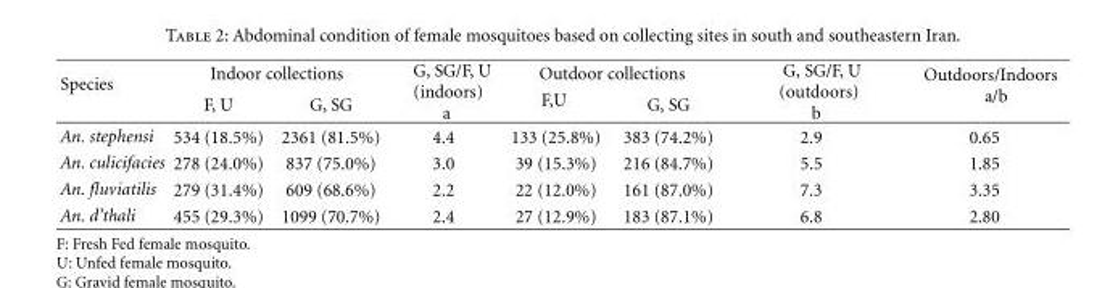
<table><thead><tr><td rowspan="2">Species</td><td colspan="2">Indoor collections</td><td rowspan="2">G, SG/F, U (indoors) a</td><td colspan="2">Outdoor collections</td><td rowspan="2">G, SG/F, U (outdoors) b</td><td rowspan="2">Outdoors/Indoors a/b</td></tr><tr><td>F, U</td><td>G, SG</td><td>F,U</td><td>G, SG</td></tr></thead><tbody><tr><td>An. stephensi</td><td>534 (18.5%)</td><td>2361 (81.5%)</td><td>4.4</td><td>133 (25.8%)</td><td>383 (74.2%)</td><td>2.9</td><td>0.65</td></tr><tr><td>An. culicifacies</td><td>278 (24.0%)</td><td>837 (75.0%)</td><td>3.0</td><td>39 (15.3%)</td><td>216 (84.7%)</td><td>5.5</td><td>1.85</td></tr><tr><td>An. fluviatilis</td><td>279 (31.4%)</td><td>609 (68.6%)</td><td>2.2</td><td>22 (12.0%)</td><td>161 (87.0%)</td><td>7.3</td><td>3.35</td></tr><tr><td>An. d’thali</td><td>455 (29.3%)</td><td>1099 (70.7%)</td><td>2.4</td><td>27 (12.9%)</td><td>183 (87.1%)</td><td>6.8</td><td>2.80</td></tr></tbody></table>